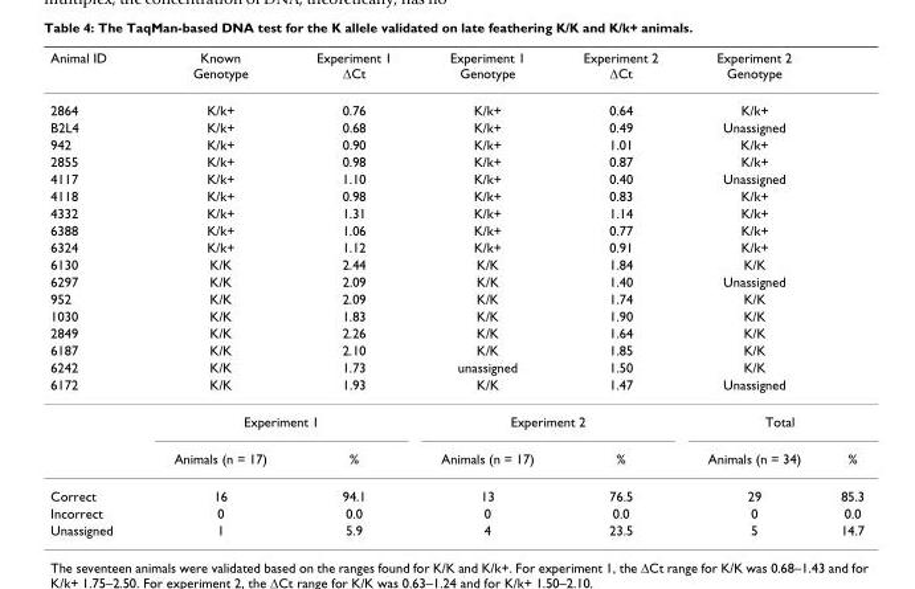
<table><thead><tr><td>Animal ID</td><td>Known Genotype</td><td>Experiment 1 ΔCt</td><td>Experiment 1 Genotype</td><td>Experiment 2 ΔCt</td><td>Experiment 2 Genotype</td><td></td></tr></thead><tbody><tr><td>2864</td><td>K/k+</td><td>0.76</td><td>K/k+</td><td>0.64</td><td>K/k+</td><td></td></tr><tr><td>B2L4</td><td>K/k+</td><td>0.68</td><td>K/k+</td><td>0.49</td><td>Unassigned</td><td></td></tr><tr><td>942</td><td>K/k+</td><td>0.90</td><td>K/k+</td><td>1.01</td><td>K/k+</td><td></td></tr><tr><td>2855</td><td>K/k+</td><td>0.98</td><td>K/k+</td><td>0.87</td><td>K/k+</td><td></td></tr><tr><td>4117</td><td>K/k+</td><td>1.10</td><td>K/k+</td><td>0.40</td><td>Unassigned</td><td></td></tr><tr><td>4118</td><td>K/k+</td><td>0.98</td><td>K/k+</td><td>0.83</td><td>K/k+</td><td></td></tr><tr><td>4332</td><td>K/k+</td><td>1.31</td><td>K/k+</td><td>1.14</td><td>K/k+</td><td></td></tr><tr><td>6388</td><td>K/k+</td><td>1.06</td><td>K/k+</td><td>0.77</td><td>K/k+</td><td></td></tr><tr><td>6324</td><td>K/k+</td><td>1.12</td><td>K/k+</td><td>0.91</td><td>K/k+</td><td></td></tr><tr><td>6130</td><td>K/K</td><td>2.44</td><td>K/K</td><td>1.84</td><td>K/K</td><td></td></tr><tr><td>6297</td><td>K/K</td><td>2.09</td><td>K/K</td><td>1.40</td><td>Unassigned</td><td></td></tr><tr><td>952</td><td>K/K</td><td>2.09</td><td>K/K</td><td>1.74</td><td>K/K</td><td></td></tr><tr><td>1030</td><td>K/K</td><td>1.83</td><td>K/K</td><td>1.90</td><td>K/K</td><td></td></tr><tr><td>2849</td><td>K/K</td><td>2.26</td><td>K/K</td><td>1.64</td><td>K/K</td><td></td></tr><tr><td>6187</td><td>K/K</td><td>2.10</td><td>K/K</td><td>1.85</td><td>K/K</td><td></td></tr><tr><td>6242</td><td>K/K</td><td>1.73</td><td>unassigned</td><td>1.50</td><td>K/K</td><td></td></tr><tr><td rowspan="3">6172</td><td>K/K</td><td>1.93</td><td>K/K</td><td>1.47</td><td>Unassigned</td><td></td></tr><tr><td colspan="2">Experiment 1</td><td colspan="2">Experiment 2</td><td colspan="2">Total</td></tr><tr><td>Animals (n = 17)</td><td>%</td><td>Animals (n = 17)</td><td>%</td><td>Animals (n = 34)</td><td>%</td></tr><tr><td>Correct</td><td>16</td><td>94.1</td><td>13</td><td>76.5</td><td>29</td><td>85.3</td></tr><tr><td>Incorrect</td><td>0</td><td>0.0</td><td>0</td><td>0.0</td><td>0</td><td>0.0</td></tr><tr><td>Unassigned</td><td>1</td><td>5.9</td><td>4</td><td>23.5</td><td>5</td><td>14.7</td></tr></tbody></table>